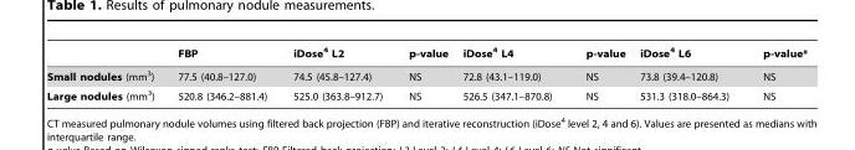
<table><thead><tr><td></td><td>FBP</td><td>iDose<sup>4</sup> L2</td><td>p-value</td><td>iDose<sup>4</sup> L4</td><td>p-value</td><td>iDose<sup>4</sup> L6</td><td>p-value*</td></tr></thead><tbody><tr><td>Small nodules (mm<sup>3</sup>)</td><td>77.5 (40.8–127.0)</td><td>74.5 (45.8–127.4)</td><td>NS</td><td>72.8 (43.1–119.0)</td><td>NS</td><td>73.8 (39.4–120.8)</td><td>NS</td></tr><tr><td>Large nodules (mm<sup>3</sup>)</td><td>520.8 (346.2–881.4)</td><td>525.0 (363.8–912.7)</td><td>NS</td><td>526.5 (347.1–870.8)</td><td>NS</td><td>531.3 (318.0–864.3)</td><td>NS</td></tr></tbody></table>